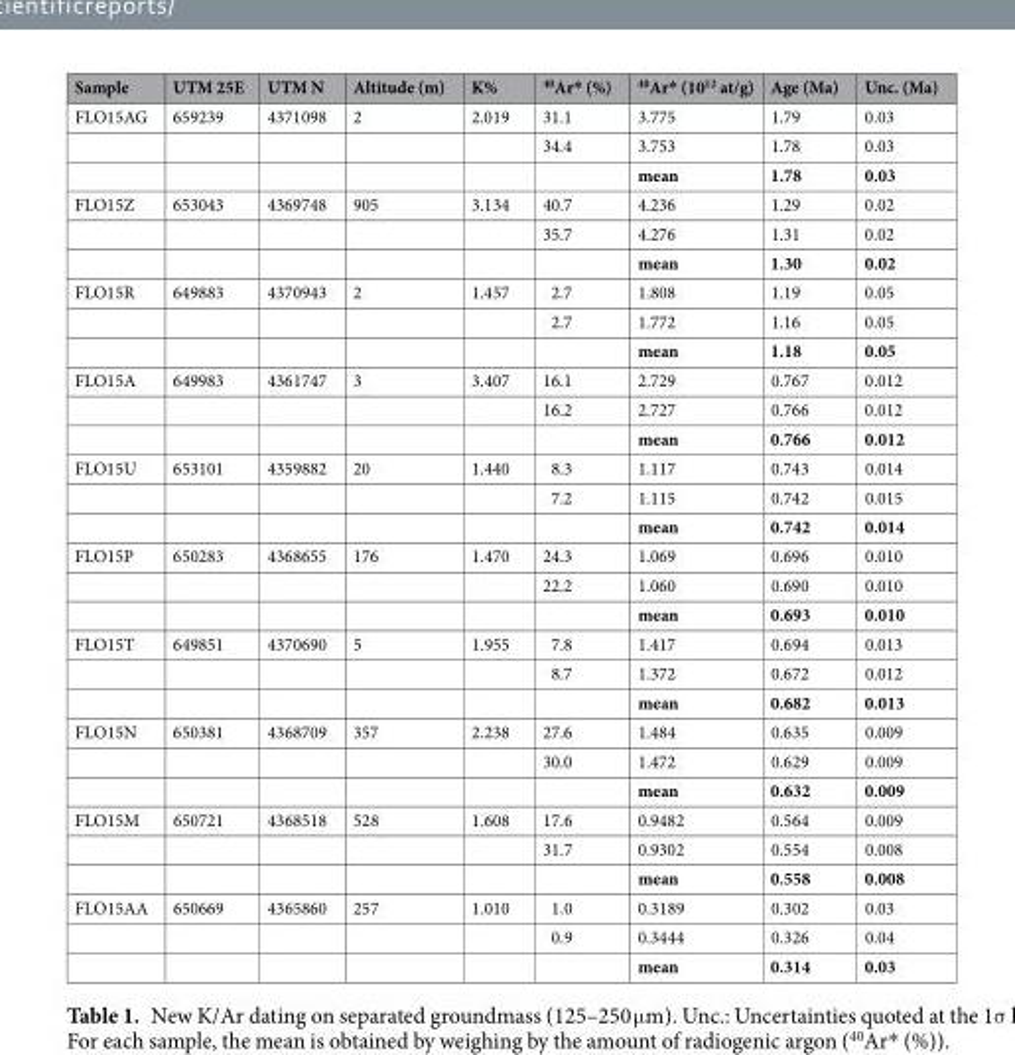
<table><thead><tr><td>Sample</td><td>UTM 25E</td><td>UTM N</td><td>Altitude (m)</td><td>K%</td><td><sup>40</sup>Ar* (%)</td><td><sup>40</sup>Ar* (10<sup>12</sup> at/g)</td><td>Age (Ma)</td><td>Unc. (Ma)</td></tr></thead><tbody><tr><td rowspan="3">FLO15AG</td><td>659239</td><td>4371098</td><td>2</td><td>2.019</td><td>31.1</td><td>3.775</td><td>1.79</td><td>0.03</td></tr><tr><td></td><td></td><td></td><td></td><td>34.4</td><td>3.753</td><td>1.78</td><td>0.03</td></tr><tr><td></td><td></td><td></td><td></td><td></td><td>mean</td><td>1.78</td><td>0.03</td></tr><tr><td rowspan="3">FLO15Z</td><td>653043</td><td>4369748</td><td>905</td><td>3.134</td><td>40.7</td><td>4.236</td><td>1.29</td><td>0.02</td></tr><tr><td></td><td></td><td></td><td></td><td>35.7</td><td>4.276</td><td>1.31</td><td>0.02</td></tr><tr><td></td><td></td><td></td><td></td><td></td><td>mean</td><td>1.30</td><td>0.02</td></tr><tr><td rowspan="3">FLO15R</td><td>649883</td><td>4370943</td><td>2</td><td>1.457</td><td>2.7</td><td>1.808</td><td>1.19</td><td>0.05</td></tr><tr><td></td><td></td><td></td><td></td><td>2.7</td><td>1.772</td><td>1.16</td><td>0.05</td></tr><tr><td></td><td></td><td></td><td></td><td></td><td>mean</td><td>1.18</td><td>0.05</td></tr><tr><td rowspan="3">FLO15A</td><td>649983</td><td>4361747</td><td>3</td><td>3.407</td><td>16.1</td><td>2.729</td><td>0.767</td><td>0.012</td></tr><tr><td></td><td></td><td></td><td></td><td>16.2</td><td>2.727</td><td>0.766</td><td>0.012</td></tr><tr><td></td><td></td><td></td><td></td><td></td><td>mean</td><td>0.766</td><td>0.012</td></tr><tr><td rowspan="3">FLO15U</td><td>653101</td><td>4359882</td><td>20</td><td>1.440</td><td>8.3</td><td>1.117</td><td>0.743</td><td>0.014</td></tr><tr><td></td><td></td><td></td><td></td><td>7.2</td><td>1.115</td><td>0.742</td><td>0.015</td></tr><tr><td></td><td></td><td></td><td></td><td></td><td>mean</td><td>0.742</td><td>0.014</td></tr><tr><td rowspan="3">FLO15P</td><td>650283</td><td>4368655</td><td>176</td><td>1.470</td><td>24.3</td><td>1.069</td><td>0.696</td><td>0.010</td></tr><tr><td></td><td></td><td></td><td></td><td>22.2</td><td>1.060</td><td>0.690</td><td>0.010</td></tr><tr><td></td><td></td><td></td><td></td><td></td><td>mean</td><td>0.693</td><td>0.010</td></tr><tr><td rowspan="3">FLO15T</td><td>649851</td><td>4370690</td><td>5</td><td>1.955</td><td>7.8</td><td>1.417</td><td>0.694</td><td>0.013</td></tr><tr><td></td><td></td><td></td><td></td><td>8.7</td><td>1.372</td><td>0.672</td><td>0.012</td></tr><tr><td></td><td></td><td></td><td></td><td></td><td>mean</td><td>0.682</td><td>0.013</td></tr><tr><td rowspan="3">FLO15N</td><td>650381</td><td>4368709</td><td>357</td><td>2.238</td><td>27.6</td><td>1.484</td><td>0.635</td><td>0.009</td></tr><tr><td></td><td></td><td></td><td></td><td>30.0</td><td>1.472</td><td>0.629</td><td>0.009</td></tr><tr><td></td><td></td><td></td><td></td><td></td><td>mean</td><td>0.632</td><td>0.009</td></tr><tr><td rowspan="3">FLO15M</td><td>650721</td><td>4368518</td><td>528</td><td>1.608</td><td>17.6</td><td>0.9482</td><td>0.564</td><td>0.009</td></tr><tr><td></td><td></td><td></td><td></td><td>31.7</td><td>0.9302</td><td>0.554</td><td>0.008</td></tr><tr><td></td><td></td><td></td><td></td><td></td><td>mean</td><td>0.558</td><td>0.008</td></tr><tr><td rowspan="3">FLO15AA</td><td>650669</td><td>4365860</td><td>257</td><td>1.010</td><td>1.0</td><td>0.3189</td><td>0.302</td><td>0.03</td></tr><tr><td></td><td></td><td></td><td></td><td>0.9</td><td>0.3444</td><td>0.326</td><td>0.04</td></tr><tr><td></td><td></td><td></td><td></td><td></td><td>mean</td><td>0.314</td><td>0.03</td></tr></tbody></table>